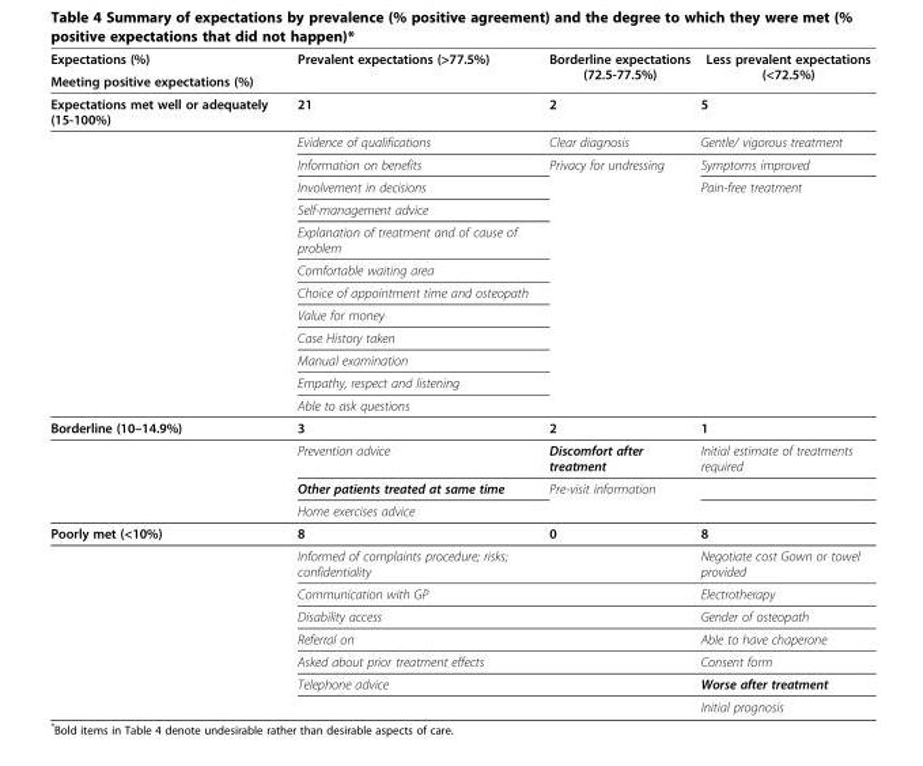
<table><thead><tr><td rowspan="2">Expectations (%) Meeting positive expectations (%)</td><td rowspan="2">Prevalent expectations (&gt;77.5%)</td><td rowspan="2">Borderline expectations (72.5-77.5%)</td><td rowspan="2">Less prevalent expectations (&lt;72.5%)</td></tr><tr></tr></thead><tbody><tr><td rowspan="13">Expectations met well or adequately (15-100%)</td><td>21</td><td>2</td><td>5</td></tr><tr><td>Evidence of qualifications</td><td>Clear diagnosis</td><td>Gentle/ vigorous treatment</td></tr><tr><td>Information on benefits</td><td rowspan="11">Privacy for undressing</td><td>Symptoms improved</td></tr><tr><td>Involvement in decisions</td><td rowspan="10">Pain-free treatment</td></tr><tr><td>Self-management advice</td></tr><tr><td>Explanation of treatment and of cause of problem</td></tr><tr><td>Comfortable waiting area</td></tr><tr><td>Choice of appointment time and osteopath</td></tr><tr><td>Value for money</td></tr><tr><td>Case History taken</td></tr><tr><td>Manual examination</td></tr><tr><td>Empathy, respect and listening</td></tr><tr><td>Able to ask questions</td></tr><tr><td rowspan="4">Borderline (10–14.9%)</td><td>3</td><td>2</td><td>1</td></tr><tr><td>Prevention advice</td><td>Discomfort after treatment</td><td>Initial estimate of treatments required</td></tr><tr><td>Other patients treated at same time</td><td>Pre-visit information</td><td></td></tr><tr><td>Home exercises advice</td><td></td><td></td></tr><tr><td rowspan="8">Poorly met (&lt;10%)</td><td>8</td><td>0</td><td>8</td></tr><tr><td>Informed of complaints procedure; risks; confidentiality</td><td></td><td>Negotiate cost Gown or towel provided</td></tr><tr><td>Communication with GP</td><td></td><td>Electrotherapy</td></tr><tr><td>Disability access</td><td></td><td>Gender of osteopath</td></tr><tr><td>Referral on</td><td></td><td>Able to have chaperone</td></tr><tr><td>Asked about prior treatment effects</td><td></td><td>Consent form</td></tr><tr><td>Telephone advice</td><td></td><td>Worse after treatment</td></tr><tr><td></td><td></td><td>Initial prognosis</td></tr></tbody></table>